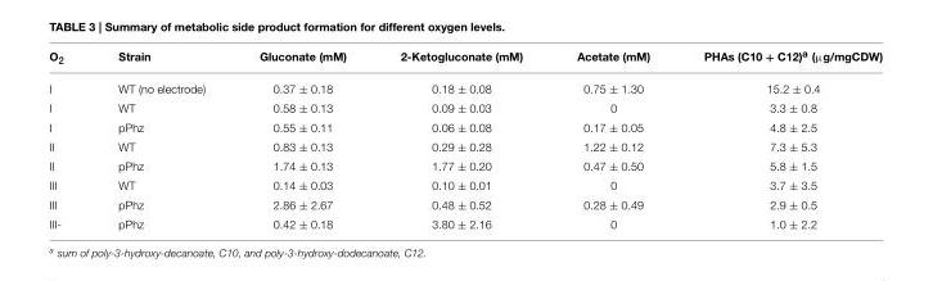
<table><thead><tr><td>O<sub>2</sub></td><td>Strain</td><td>Gluconate (mM)</td><td>2-Ketogluconate (mM)</td><td>Acetate (mM)</td><td>PHAs (C10 + C12)<sup>a</sup> (µg/mgCDW)</td></tr></thead><tbody><tr><td>I</td><td>WT (no electrode)</td><td>0.37 ± 0.18</td><td>0.18 ± 0.08</td><td>0.75 ± 1.30</td><td>15.2 ± 0.4</td></tr><tr><td>I</td><td>WT</td><td>0.58 ± 0.13</td><td>0.09 ± 0.03</td><td>0</td><td>3.3 ± 0.8</td></tr><tr><td>I</td><td>pPhz</td><td>0.55 ± 0.11</td><td>0.06 ± 0.08</td><td>0.17 ± 0.05</td><td>4.8 ± 2.5</td></tr><tr><td>II</td><td>WT</td><td>0.83 ± 0.13</td><td>0.29 ± 0.28</td><td>1.22 ± 0.12</td><td>7.3 ± 5.3</td></tr><tr><td>II</td><td>pPhz</td><td>1.74 ± 0.13</td><td>1.77 ± 0.20</td><td>0.47 ± 0.50</td><td>5.8 ± 1.5</td></tr><tr><td>III</td><td>WT</td><td>0.14 ± 0.03</td><td>0.10 ± 0.01</td><td>0</td><td>3.7 ± 3.5</td></tr><tr><td>III</td><td>pPhz</td><td>2.86 ± 2.67</td><td>0.48 ± 0.52</td><td>0.28 ± 0.49</td><td>2.9 ± 0.5</td></tr><tr><td>III-</td><td>pPhz</td><td>0.42 ± 0.18</td><td>3.80 ± 2.16</td><td>0</td><td>1.0 ± 2.2</td></tr></tbody></table>